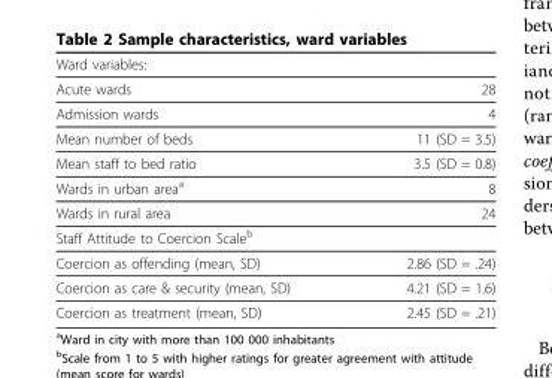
<table><thead><tr><td>Ward variables:</td><td></td></tr></thead><tbody><tr><td>Acute wards</td><td>28</td></tr><tr><td>Admission wards</td><td>4</td></tr><tr><td>Mean number of beds</td><td>11 (SD = 3.5)</td></tr><tr><td>Mean staff to bed ratio</td><td>3.5 (SD = 0.8)</td></tr><tr><td>Wards in urban area<sup>a</sup></td><td>8</td></tr><tr><td>Wards in rural area</td><td>24</td></tr><tr><td colspan="2">Staff Attitude to Coercion Scale<sup>b</sup></td></tr><tr><td>Coercion as offending (mean, SD)</td><td>2.86 (SD = .24)</td></tr><tr><td>Coercion as care &amp; security (mean, SD)</td><td>4.21 (SD = 1.6)</td></tr><tr><td>Coercion as treatment (mean, SD)</td><td>2.45 (SD = .21)</td></tr></tbody></table>